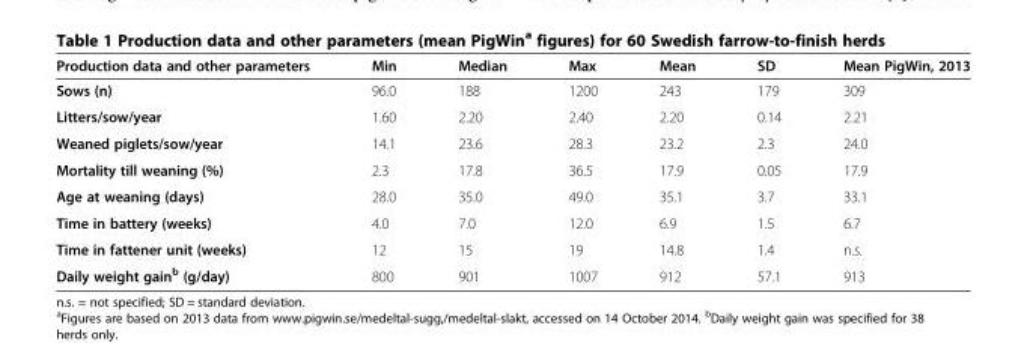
<table><thead><tr><td>Production data and other parameters</td><td>Min</td><td>Median</td><td>Max</td><td>Mean</td><td>SD</td><td>Mean PigWin, 2013</td></tr></thead><tbody><tr><td>Sows (n)</td><td>96.0</td><td>188</td><td>1200</td><td>243</td><td>179</td><td>309</td></tr><tr><td>Litters/sow/year</td><td>1.60</td><td>2.20</td><td>2.40</td><td>2.20</td><td>0.14</td><td>2.21</td></tr><tr><td>Weaned piglets/sow/year</td><td>14.1</td><td>23.6</td><td>28.3</td><td>23.2</td><td>2.3</td><td>24.0</td></tr><tr><td>Mortality till weaning (%)</td><td>2.3</td><td>17.8</td><td>36.5</td><td>17.9</td><td>0.05</td><td>17.9</td></tr><tr><td>Age at weaning (days)</td><td>28.0</td><td>35.0</td><td>49.0</td><td>35.1</td><td>3.7</td><td>33.1</td></tr><tr><td>Time in battery (weeks)</td><td>4.0</td><td>7.0</td><td>12.0</td><td>6.9</td><td>1.5</td><td>6.7</td></tr><tr><td>Time in fattener unit (weeks)</td><td>12</td><td>15</td><td>19</td><td>14.8</td><td>1.4</td><td>n.s.</td></tr><tr><td>Daily weight gain<sup>b</sup> (g/day)</td><td>800</td><td>901</td><td>1007</td><td>912</td><td>57.1</td><td>913</td></tr></tbody></table>